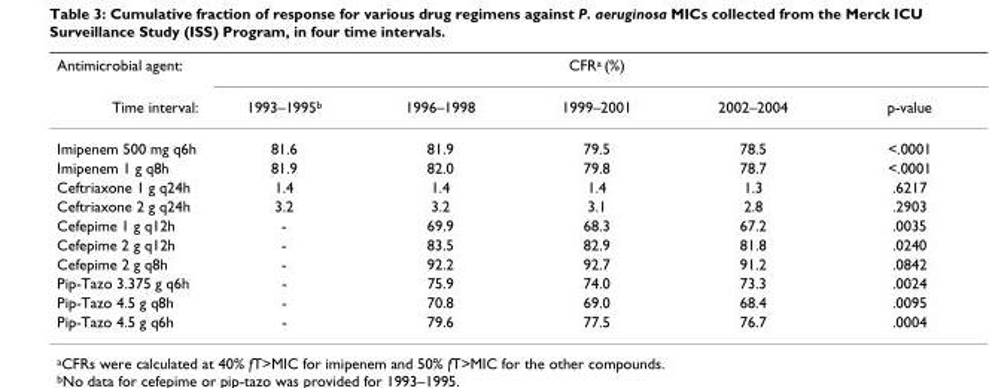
<table><thead><tr><td rowspan="2">Antimicrobial agent: Time interval:</td><td colspan="5">CFR<sup>a</sup> (%)</td></tr><tr><td>1993–1995<sup>b</sup></td><td>1996–1998</td><td>1999–2001</td><td>2002–2004</td><td>p-value</td></tr></thead><tbody><tr><td>Imipenem 500 mg q6h</td><td>81.6</td><td>81.9</td><td>79.5</td><td>78.5</td><td>&lt;.0001</td></tr><tr><td>Imipenem 1 g q8h</td><td>81.9</td><td>82.0</td><td>79.8</td><td>78.7</td><td>&lt;.0001</td></tr><tr><td>Ceftriaxone 1 g q24h</td><td>1.4</td><td>1.4</td><td>1.4</td><td>1.3</td><td>.6217</td></tr><tr><td>Ceftriaxone 2 g q24h</td><td>3.2</td><td>3.2</td><td>3.1</td><td>2.8</td><td>.2903</td></tr><tr><td>Cefepime 1 g q12h</td><td>-</td><td>69.9</td><td>68.3</td><td>67.2</td><td>.0035</td></tr><tr><td>Cefepime 2 g q12h</td><td>-</td><td>83.5</td><td>82.9</td><td>81.8</td><td>.0240</td></tr><tr><td>Cefepime 2 g q8h</td><td>-</td><td>92.2</td><td>92.7</td><td>91.2</td><td>.0842</td></tr><tr><td>Pip-Tazo 3.375 g q6h</td><td>-</td><td>75.9</td><td>74.0</td><td>73.3</td><td>.0024</td></tr><tr><td>Pip-Tazo 4.5 g q8h</td><td>-</td><td>70.8</td><td>69.0</td><td>68.4</td><td>.0095</td></tr><tr><td>Pip-Tazo 4.5 g q6h</td><td>-</td><td>79.6</td><td>77.5</td><td>76.7</td><td>.0004</td></tr></tbody></table>